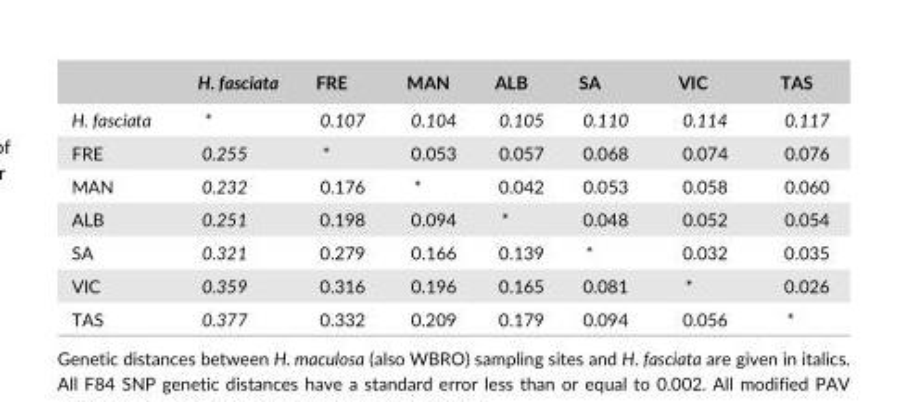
<table><thead><tr><td></td><td>H. fasciata</td><td>FRE</td><td>MAN</td><td>ALB</td><td>SA</td><td>VIC</td><td>TAS</td></tr></thead><tbody><tr><td>H. fasciata</td><td>*</td><td>0.107</td><td>0.104</td><td>0.105</td><td>0.110</td><td>0.114</td><td>0.117</td></tr><tr><td>FRE</td><td>0.255</td><td>*</td><td>0.053</td><td>0.057</td><td>0.068</td><td>0.074</td><td>0.076</td></tr><tr><td>MAN</td><td>0.232</td><td>0.176</td><td>*</td><td>0.042</td><td>0.053</td><td>0.058</td><td>0.060</td></tr><tr><td>ALB</td><td>0.251</td><td>0.198</td><td>0.094</td><td>*</td><td>0.048</td><td>0.052</td><td>0.054</td></tr><tr><td>SA</td><td>0.321</td><td>0.279</td><td>0.166</td><td>0.139</td><td>*</td><td>0.032</td><td>0.035</td></tr><tr><td>VIC</td><td>0.359</td><td>0.316</td><td>0.196</td><td>0.165</td><td>0.081</td><td>*</td><td>0.026</td></tr><tr><td>TAS</td><td>0.377</td><td>0.332</td><td>0.209</td><td>0.179</td><td>0.094</td><td>0.056</td><td>*</td></tr></tbody></table>